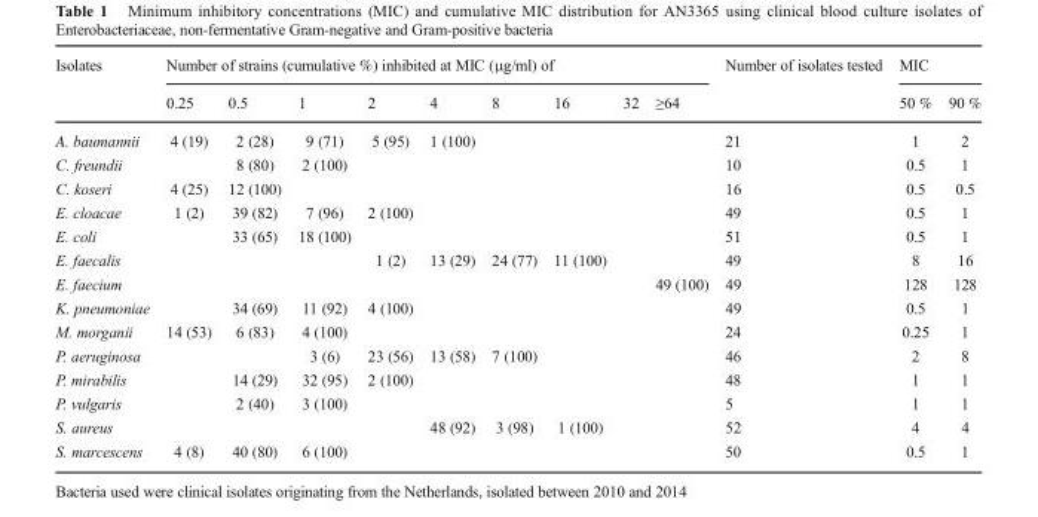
<table><thead><tr><td rowspan="2">Isolates</td><td colspan="9">Number of strains (cumulative %) inhibited at MIC (μg/ml) of</td><td rowspan="2">Number of isolates tested</td><td colspan="2">MIC</td></tr><tr><td>0.25</td><td>0.5</td><td>1</td><td>2</td><td>4</td><td>8</td><td>16</td><td>32</td><td>≥64</td><td>50 %</td><td>90 %</td></tr></thead><tbody><tr><td>A. baumannii</td><td>4 (19)</td><td>2 (28)</td><td>9 (71)</td><td>5 (95)</td><td>1 (100)</td><td></td><td></td><td></td><td></td><td>21</td><td>1</td><td>2</td></tr><tr><td>C. freundii</td><td></td><td>8 (80)</td><td>2 (100)</td><td></td><td></td><td></td><td></td><td></td><td></td><td>10</td><td>0.5</td><td>1</td></tr><tr><td>C. koseri</td><td>4 (25)</td><td>12 (100)</td><td></td><td></td><td></td><td></td><td></td><td></td><td></td><td>16</td><td>0.5</td><td>0.5</td></tr><tr><td>E. cloacae</td><td>1 (2)</td><td>39 (82)</td><td>7 (96)</td><td>2 (100)</td><td></td><td></td><td></td><td></td><td></td><td>49</td><td>0.5</td><td>1</td></tr><tr><td>E. coli</td><td></td><td>33 (65)</td><td>18 (100)</td><td></td><td></td><td></td><td></td><td></td><td></td><td>51</td><td>0.5</td><td>1</td></tr><tr><td>E. faecalis</td><td></td><td></td><td></td><td>1 (2)</td><td>13 (29)</td><td>24 (77)</td><td>11 (100)</td><td></td><td></td><td>49</td><td>8</td><td>16</td></tr><tr><td>E. faecium</td><td></td><td></td><td></td><td></td><td></td><td></td><td></td><td></td><td>49 (100)</td><td>49</td><td>128</td><td>128</td></tr><tr><td>K. pneumoniae</td><td></td><td>34 (69)</td><td>11 (92)</td><td>4 (100)</td><td></td><td></td><td></td><td></td><td></td><td>49</td><td>0.5</td><td>1</td></tr><tr><td>M. morganii</td><td>14 (53)</td><td>6 (83)</td><td>4 (100)</td><td></td><td></td><td></td><td></td><td></td><td></td><td>24</td><td>0.25</td><td>1</td></tr><tr><td>P. aeruginosa</td><td></td><td></td><td>3 (6)</td><td>23 (56)</td><td>13 (58)</td><td>7 (100)</td><td></td><td></td><td></td><td>46</td><td>2</td><td>8</td></tr><tr><td>P. mirabilis</td><td></td><td>14 (29)</td><td>32 (95)</td><td>2 (100)</td><td></td><td></td><td></td><td></td><td></td><td>48</td><td>1</td><td>1</td></tr><tr><td>P. vulgaris</td><td></td><td>2 (40)</td><td>3 (100)</td><td></td><td></td><td></td><td></td><td></td><td></td><td>5</td><td>1</td><td>1</td></tr><tr><td>S. aureus</td><td></td><td></td><td></td><td></td><td>48 (92)</td><td>3 (98)</td><td>1 (100)</td><td></td><td></td><td>52</td><td>4</td><td>4</td></tr><tr><td>S. marcescens</td><td>4 (8)</td><td>40 (80)</td><td>6 (100)</td><td></td><td></td><td></td><td></td><td></td><td></td><td>50</td><td>0.5</td><td>1</td></tr></tbody></table>